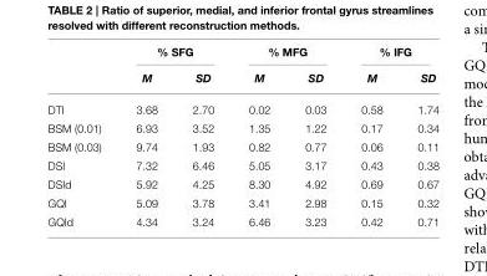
<table><thead><tr><td rowspan="2"></td><td colspan="2">% SFG</td><td colspan="2">% MFG</td><td colspan="2">% IFG</td></tr><tr><td>M</td><td>SD</td><td>M</td><td>SD</td><td>M</td><td>SD</td></tr></thead><tbody><tr><td>DTI</td><td>3.68</td><td>2.70</td><td>0.02</td><td>0.03</td><td>0.58</td><td>1.74</td></tr><tr><td>BSM (0.01)</td><td>6.93</td><td>3.52</td><td>1.35</td><td>1.22</td><td>0.17</td><td>0.34</td></tr><tr><td>BSM (0.03)</td><td>9.74</td><td>1.93</td><td>0.82</td><td>0.77</td><td>0.06</td><td>0.11</td></tr><tr><td>DSI</td><td>7.32</td><td>6.46</td><td>5.05</td><td>3.17</td><td>0.43</td><td>0.38</td></tr><tr><td>DSId</td><td>5.92</td><td>4.25</td><td>8.30</td><td>4.92</td><td>0.69</td><td>0.67</td></tr><tr><td>GQI</td><td>5.09</td><td>3.78</td><td>3.41</td><td>2.98</td><td>0.15</td><td>0.32</td></tr><tr><td>GQId</td><td>4.34</td><td>3.24</td><td>6.46</td><td>3.23</td><td>0.42</td><td>0.71</td></tr></tbody></table>